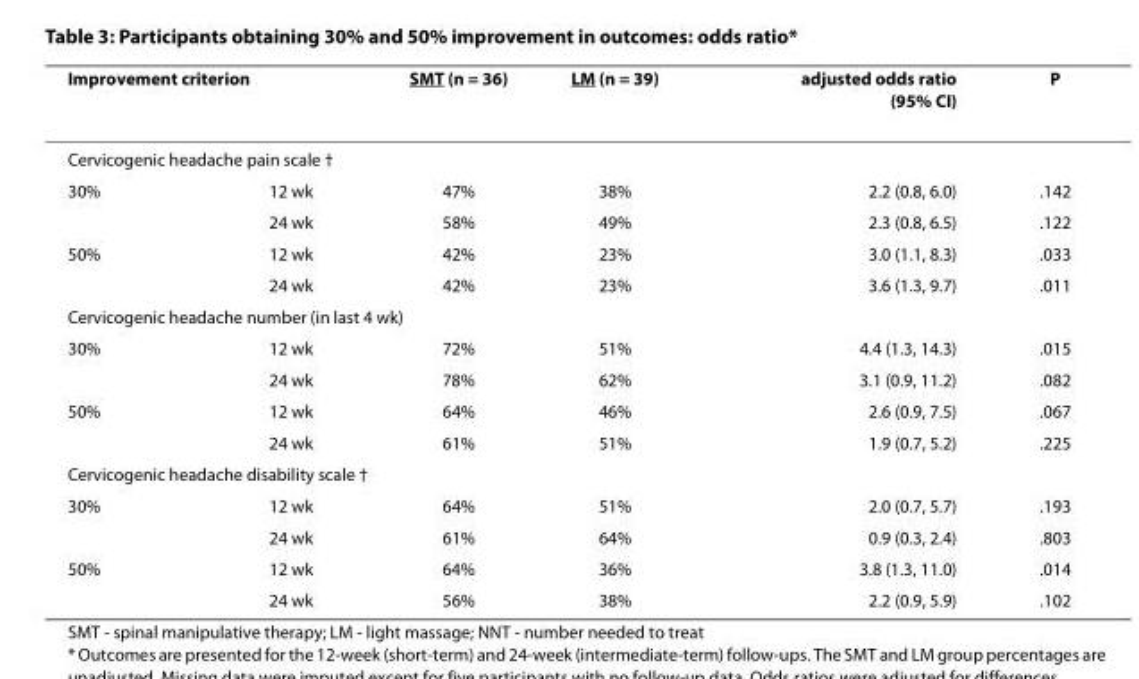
<table><thead><tr><td colspan="2">Improvement criterion</td><td>SMT (n = 36)</td><td>LM (n = 39)</td><td>adjusted odds ratio (95% CI)</td><td>P</td></tr><tr><td colspan="6">Cervicogenic headache pain scale †</td></tr><tr><td>30%</td><td>12 wk</td><td>47%</td><td>38%</td><td>2.2 (0.8, 6.0)</td><td>.142</td></tr></thead><tbody><tr><td></td><td>24 wk</td><td>58%</td><td>49%</td><td>2.3 (0.8, 6.5)</td><td>.122</td></tr><tr><td rowspan="2">50%</td><td>12 wk</td><td>42%</td><td>23%</td><td>3.0 (1.1, 8.3)</td><td>.033</td></tr><tr><td>24 wk</td><td>42%</td><td>23%</td><td>3.6 (1.3, 9.7)</td><td>.011</td></tr><tr><td colspan="6">Cervicogenic headache number (in last 4 wk)</td></tr><tr><td rowspan="2">30%</td><td>12 wk</td><td>72%</td><td>51%</td><td>4.4 (1.3, 14.3)</td><td>.015</td></tr><tr><td>24 wk</td><td>78%</td><td>62%</td><td>3.1 (0.9, 11.2)</td><td>.082</td></tr><tr><td rowspan="2">50%</td><td>12 wk</td><td>64%</td><td>46%</td><td>2.6 (0.9, 7.5)</td><td>.067</td></tr><tr><td>24 wk</td><td>61%</td><td>51%</td><td>1.9 (0.7, 5.2)</td><td>.225</td></tr><tr><td colspan="6">Cervicogenic headache disability scale †</td></tr><tr><td rowspan="2">30%</td><td>12 wk</td><td>64%</td><td>51%</td><td>2.0 (0.7, 5.7)</td><td>.193</td></tr><tr><td>24 wk</td><td>61%</td><td>64%</td><td>0.9 (0.3, 2.4)</td><td>.803</td></tr><tr><td rowspan="2">50%</td><td>12 wk</td><td>64%</td><td>36%</td><td>3.8 (1.3, 11.0)</td><td>.014</td></tr><tr><td>24 wk</td><td>56%</td><td>38%</td><td>2.2 (0.9, 5.9)</td><td>.102</td></tr></tbody></table>